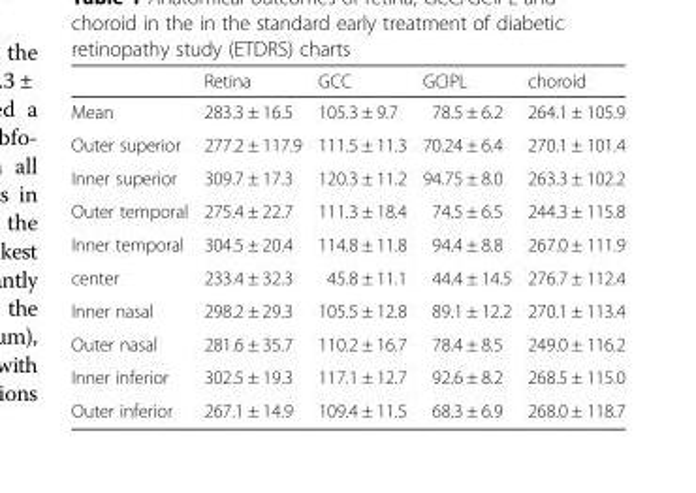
<table><thead><tr><td></td><td>Retina</td><td>GCC</td><td>GCIPL</td><td>choroid</td></tr></thead><tbody><tr><td>Mean</td><td>283.3 ± 16.5</td><td>105.3 ± 9.7</td><td>78.5 ± 6.2</td><td>264.1 ± 105.9</td></tr><tr><td>Outer superior</td><td>277.2 ± 117.9</td><td>111.5 ± 11.3</td><td>70.24 ± 6.4</td><td>270.1 ± 101.4</td></tr><tr><td>Inner superior</td><td>309.7 ± 17.3</td><td>120.3 ± 11.2</td><td>94.75 ± 8.0</td><td>263.3 ± 102.2</td></tr><tr><td>Outer temporal</td><td>275.4 ± 22.7</td><td>111.3 ± 18.4</td><td>74.5 ± 6.5</td><td>244.3 ± 115.8</td></tr><tr><td>Inner temporal</td><td>304.5 ± 20.4</td><td>114.8 ± 11.8</td><td>94.4 ± 8.8</td><td>267.0 ± 111.9</td></tr><tr><td>center</td><td>233.4 ± 32.3</td><td>45.8 ± 11.1</td><td>44.4 ± 14.5</td><td>276.7 ± 112.4</td></tr><tr><td>Inner nasal</td><td>298.2 ± 29.3</td><td>105.5 ± 12.8</td><td>89.1 ± 12.2</td><td>270.1 ± 113.4</td></tr><tr><td>Outer nasal</td><td>281.6 ± 35.7</td><td>110.2 ± 16.7</td><td>78.4 ± 8.5</td><td>249.0 ± 116.2</td></tr><tr><td>Inner inferior</td><td>302.5 ± 19.3</td><td>117.1 ± 12.7</td><td>92.6 ± 8.2</td><td>268.5 ± 115.0</td></tr><tr><td>Outer inferior</td><td>267.1 ± 14.9</td><td>109.4 ± 11.5</td><td>68.3 ± 6.9</td><td>268.0 ± 118.7</td></tr></tbody></table>